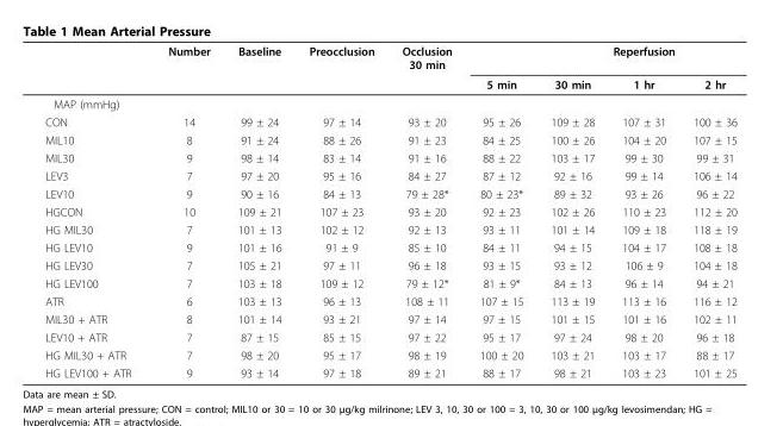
<table><thead><tr><td rowspan="2"></td><td rowspan="2">Number</td><td rowspan="2">Baseline</td><td rowspan="2">Preocclusion</td><td rowspan="2">Occlusion 30 min</td><td rowspan="2">5 min</td><td colspan="3">Reperfusion</td></tr><tr><td>30 min</td><td>1 hr</td><td>2 hr</td></tr></thead><tbody><tr><td colspan="9">MAP (mmHg)</td></tr><tr><td>CON</td><td>14</td><td>99 ± 24</td><td>97 ± 14</td><td>93 ± 20</td><td>95 ± 26</td><td>109 ± 28</td><td>107 ± 31</td><td>100 ± 36</td></tr><tr><td>MIL10</td><td>8</td><td>91 ± 24</td><td>88 ± 26</td><td>91 ± 23</td><td>84 ± 25</td><td>100 ± 26</td><td>104 ± 20</td><td>107 ± 15</td></tr><tr><td>MIL30</td><td>9</td><td>98 ± 14</td><td>83 ± 14</td><td>91 ± 16</td><td>88 ± 22</td><td>103 ± 17</td><td>99 ± 30</td><td>99 ± 31</td></tr><tr><td>LEV3</td><td>7</td><td>97 ± 20</td><td>95 ± 16</td><td>84 ± 27</td><td>87 ± 12</td><td>92 ± 16</td><td>99 ± 14</td><td>106 ± 14</td></tr><tr><td>LEV10</td><td>9</td><td>90 ± 16</td><td>84 ± 13</td><td>79 ± 28*</td><td>80 ± 23*</td><td>89 ± 32</td><td>93 ± 26</td><td>96 ± 22</td></tr><tr><td>HGCON</td><td>10</td><td>109 ± 21</td><td>107 ± 23</td><td>93 ± 20</td><td>92 ± 23</td><td>102 ± 26</td><td>110 ± 23</td><td>112 ± 20</td></tr><tr><td>HG MIL30</td><td>7</td><td>101 ± 13</td><td>102 ± 12</td><td>92 ± 13</td><td>93 ± 11</td><td>101 ± 14</td><td>109 ± 18</td><td>118 ± 19</td></tr><tr><td>HG LEV10</td><td>9</td><td>101 ± 16</td><td>91 ± 9</td><td>85 ± 10</td><td>84 ± 11</td><td>94 ± 15</td><td>104 ± 17</td><td>108 ± 18</td></tr><tr><td>HG LEV30</td><td>7</td><td>105 ± 21</td><td>97 ± 11</td><td>96 ± 18</td><td>93 ± 15</td><td>93 ± 12</td><td>106 ± 9</td><td>104 ± 18</td></tr><tr><td>HG LEV100</td><td>7</td><td>103 ± 18</td><td>109 ± 12</td><td>79 ± 12*</td><td>81 ± 9*</td><td>84 ± 13</td><td>96 ± 14</td><td>94 ± 21</td></tr><tr><td>ATR</td><td>6</td><td>103 ± 13</td><td>96 ± 13</td><td>108 ± 11</td><td>107 ± 15</td><td>113 ± 19</td><td>113 ± 16</td><td>116 ± 12</td></tr><tr><td>MIL30 + ATR</td><td>8</td><td>101 ± 14</td><td>93 ± 21</td><td>97 ± 14</td><td>97 ± 15</td><td>101 ± 15</td><td>101 ± 16</td><td>102 ± 11</td></tr><tr><td>LEV10 + ATR</td><td>7</td><td>87 ± 15</td><td>85 ± 15</td><td>97 ± 22</td><td>95 ± 17</td><td>97 ± 24</td><td>98 ± 20</td><td>96 ± 18</td></tr><tr><td>HG MIL30 + ATR</td><td>7</td><td>98 ± 20</td><td>95 ± 17</td><td>98 ± 19</td><td>100 ± 20</td><td>103 ± 21</td><td>103 ± 17</td><td>88 ± 17</td></tr><tr><td>HG LEV100 + ATR</td><td>9</td><td>93 ± 14</td><td>97 ± 18</td><td>89 ± 21</td><td>88 ± 17</td><td>98 ± 21</td><td>103 ± 23</td><td>101 ± 25</td></tr></tbody></table>